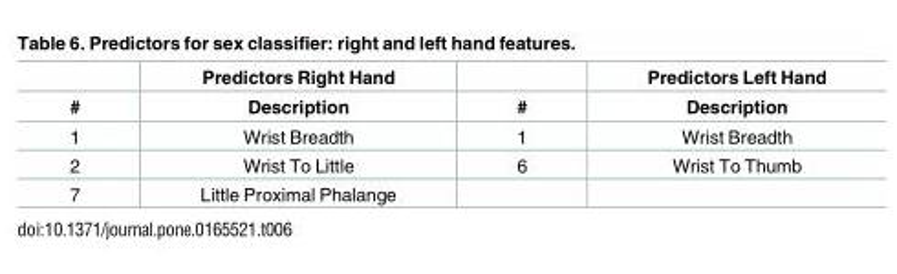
<table><thead><tr><td rowspan="2">#</td><td rowspan="2">Predictors Right Hand Description</td><td rowspan="2">#</td><td rowspan="2">Predictors Left Hand Description</td></tr><tr></tr></thead><tbody><tr><td>1</td><td>Wrist Breadth</td><td>1</td><td>Wrist Breadth</td></tr><tr><td>2</td><td>Wrist To Little</td><td>6</td><td>Wrist To Thumb</td></tr><tr><td>7</td><td>Little Proximal Phalange</td><td></td><td></td></tr></tbody></table>